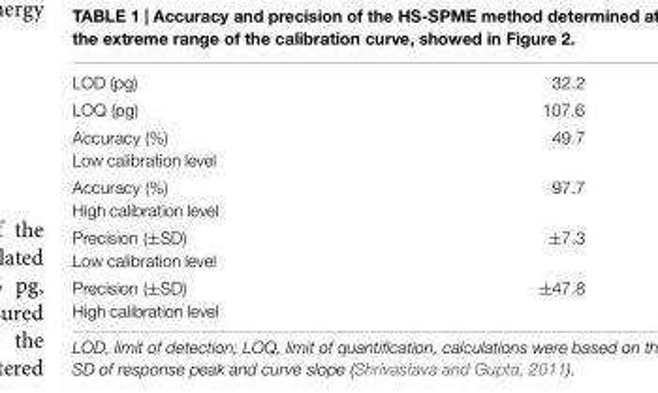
<table><tbody><tr><td>LOD (pg)</td><td>32.2</td></tr><tr><td>LOQ (pg)</td><td>107.6</td></tr><tr><td>Accuracy (%) Low calibration level</td><td>49.7</td></tr><tr><td>Accuracy (%) High calibration level</td><td>97.7</td></tr><tr><td>Precision (±SD) Low calibration level</td><td>±7.3</td></tr><tr><td>Precision (±SD) High calibration level</td><td>±47.8</td></tr></tbody></table>